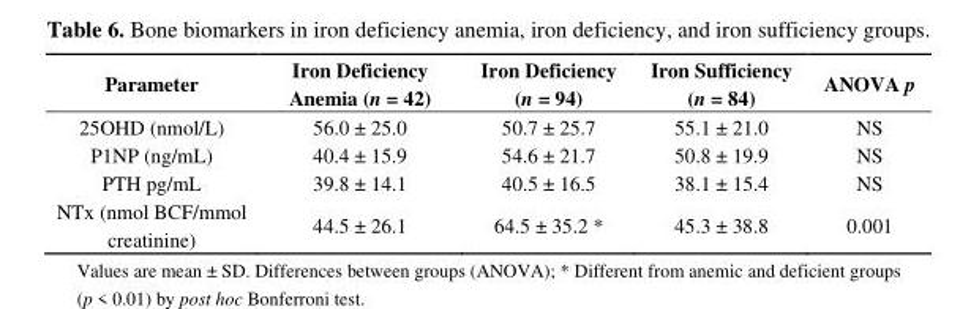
<table><thead><tr><td>Parameter</td><td>Iron Deficiency Anemia (n = 42)</td><td>Iron Deficiency (n = 94)</td><td>Iron Sufficiency (n = 84)</td><td>ANOVA p</td></tr></thead><tbody><tr><td>25OHD (nmol/L)</td><td>56.0 ± 25.0</td><td>50.7 ± 25.7</td><td>55.1 ± 21.0</td><td>NS</td></tr><tr><td>P1NP (ng/mL)</td><td>40.4 ± 15.9</td><td>54.6 ± 21.7</td><td>50.8 ± 19.9</td><td>NS</td></tr><tr><td>PTH pg/mL</td><td>39.8 ± 14.1</td><td>40.5 ± 16.5</td><td>38.1 ± 15.4</td><td>NS</td></tr><tr><td>NTx (nmol BCF/mmol creatinine)</td><td>44.5 ± 26.1</td><td>64.5 ± 35.2 *</td><td>45.3 ± 38.8</td><td>0.001</td></tr></tbody></table>